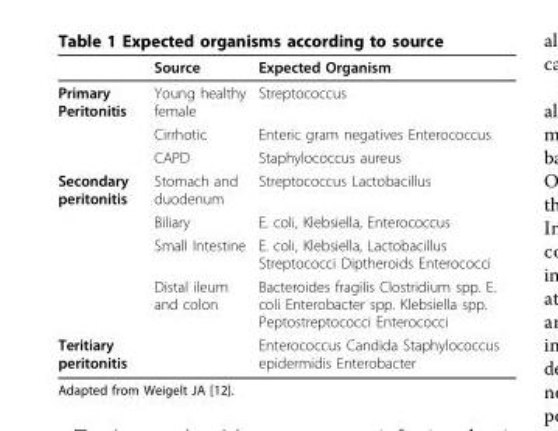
<table><thead><tr><td></td><td>Source</td><td>Expected Organism</td></tr></thead><tbody><tr><td rowspan="3">Primary Peritonitis</td><td>Young healthy female</td><td>Streptococcus</td></tr><tr><td>Cirrhotic</td><td>Enteric gram negatives Enterococcus</td></tr><tr><td>CAPD</td><td>Staphylococcus aureus</td></tr><tr><td rowspan="4">Secondary peritonitis</td><td>Stomach and duodenum</td><td>Streptococcus Lactobacillus</td></tr><tr><td>Biliary</td><td>E. coli, Klebsiella, Enterococcus</td></tr><tr><td>Small Intestine</td><td>E. coli, Klebsiella, Lactobacillus Streptococci Diptheroids Enterococci</td></tr><tr><td>Distal ileum and colon</td><td>Bacteroides fragilis Clostridium spp. E. coli Enterobacter spp. Klebsiella spp. Peptostreptococci Enterococci</td></tr><tr><td>Teritiary peritonitis</td><td></td><td>Enterococcus Candida Staphylococcus epidermidis Enterobacter</td></tr></tbody></table>